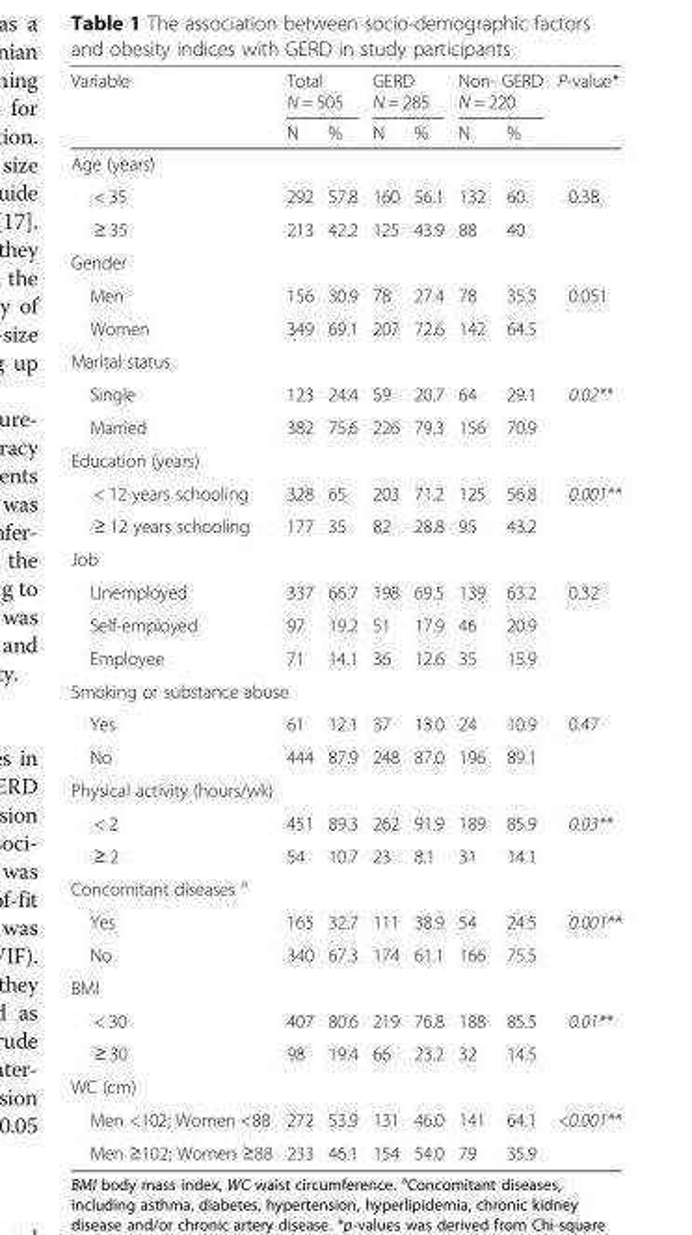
<table><thead><tr><td rowspan="2">Variable</td><td colspan="2">Total N = 505</td><td colspan="2">GERD N = 285</td><td colspan="2">Non- GERD N = 220</td><td rowspan="2">P-value*</td></tr><tr><td>N</td><td>%</td><td>N</td><td>%</td><td>N</td><td>%</td></tr></thead><tbody><tr><td colspan="8">Age (years)</td></tr><tr><td>&lt; 35</td><td>292</td><td>57.8</td><td>160</td><td>56.1</td><td>132</td><td>60</td><td rowspan="2">0.38</td></tr><tr><td>≥ 35</td><td>213</td><td>42.2</td><td>125</td><td>43.9</td><td>88</td><td>40</td></tr><tr><td colspan="8">Gender</td></tr><tr><td>Men</td><td>156</td><td>30.9</td><td>78</td><td>27.4</td><td>78</td><td>35.5</td><td rowspan="2">0.051</td></tr><tr><td>Women</td><td>349</td><td>69.1</td><td>207</td><td>72.6</td><td>142</td><td>64.5</td></tr><tr><td colspan="8">Marital status</td></tr><tr><td>Single</td><td>123</td><td>24.4</td><td>59</td><td>20.7</td><td>64</td><td>29.1</td><td rowspan="2">0.02**</td></tr><tr><td>Married</td><td>382</td><td>75.6</td><td>226</td><td>79.3</td><td>156</td><td>70.9</td></tr><tr><td colspan="8">Education (years)</td></tr><tr><td>&lt; 12 years schooling</td><td>328</td><td>65</td><td>203</td><td>71.2</td><td>125</td><td>56.8</td><td rowspan="2">0.001**</td></tr><tr><td>≥ 12 years schooling</td><td>177</td><td>35</td><td>82</td><td>28.8</td><td>95</td><td>43.2</td></tr><tr><td colspan="8">Job</td></tr><tr><td>Unemployed</td><td>337</td><td>66.7</td><td>198</td><td>69.5</td><td>139</td><td>63.2</td><td rowspan="3">0.32</td></tr><tr><td>Self-employed</td><td>97</td><td>19.2</td><td>51</td><td>17.9</td><td>46</td><td>20.9</td></tr><tr><td>Employee</td><td>71</td><td>14.1</td><td>36</td><td>12.6</td><td>35</td><td>15.9</td></tr><tr><td colspan="8">Smoking or substance abuse</td></tr><tr><td>Yes</td><td>61</td><td>12.1</td><td>37</td><td>13.0</td><td>24</td><td>10.9</td><td rowspan="2">0.47</td></tr><tr><td>No</td><td>444</td><td>87.9</td><td>248</td><td>87.0</td><td>196</td><td>89.1</td></tr><tr><td colspan="8">Physical activity (hours/wk)</td></tr><tr><td>&lt; 2</td><td>451</td><td>89.3</td><td>262</td><td>91.9</td><td>189</td><td>85.9</td><td rowspan="2">0.03**</td></tr><tr><td>≥ 2</td><td>54</td><td>10.7</td><td>23</td><td>8.1</td><td>31</td><td>14.1</td></tr><tr><td colspan="8">Concomitant diseases <sup>a</sup></td></tr><tr><td>Yes</td><td>165</td><td>32.7</td><td>111</td><td>38.9</td><td>54</td><td>24.5</td><td rowspan="2">0.001**</td></tr><tr><td>No</td><td>340</td><td>67.3</td><td>174</td><td>61.1</td><td>166</td><td>75.5</td></tr><tr><td colspan="8">BMI</td></tr><tr><td>&lt; 30</td><td>407</td><td>80.6</td><td>219</td><td>76.8</td><td>188</td><td>85.5</td><td rowspan="2">0.01**</td></tr><tr><td>≥ 30</td><td>98</td><td>19.4</td><td>66</td><td>23.2</td><td>32</td><td>14.5</td></tr><tr><td colspan="8">WC (cm)</td></tr><tr><td>Men &lt;102; Women &lt;88</td><td>272</td><td>53.9</td><td>131</td><td>46.0</td><td>141</td><td>64.1</td><td rowspan="2">&lt;0.001**</td></tr><tr><td>Men ≥102; Women ≥88</td><td>233</td><td>46.1</td><td>154</td><td>54.0</td><td>79</td><td>35.9</td></tr></tbody></table>